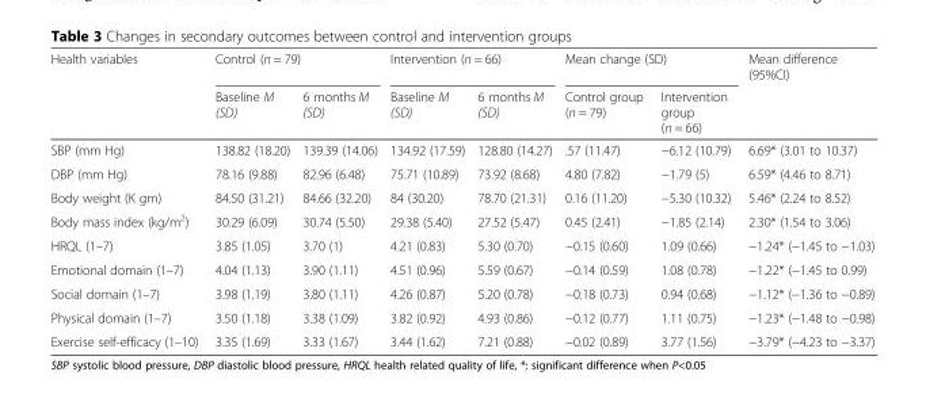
<table><thead><tr><td rowspan="2">Health variables</td><td colspan="2">Control (n = 79)</td><td colspan="2">Intervention (n = 66)</td><td colspan="2">Mean change (SD)</td><td rowspan="2">Mean difference (95%CI)</td></tr><tr><td>Baseline M (SD)</td><td>6 months M (SD)</td><td>Baseline M (SD)</td><td>6 months M (SD)</td><td>Control group (n = 79)</td><td>Intervention group (n = 66)</td></tr></thead><tbody><tr><td>SBP (mm Hg)</td><td>138.82 (18.20)</td><td>139.39 (14.06)</td><td>134.92 (17.59)</td><td>128.80 (14.27)</td><td>.57 (11.47)</td><td>−6.12 (10.79)</td><td>6.69* (3.01 to 10.37)</td></tr><tr><td>DBP (mm Hg)</td><td>78.16 (9.88)</td><td>82.96 (6.48)</td><td>75.71 (10.89)</td><td>73.92 (8.68)</td><td>4.80 (7.82)</td><td>−1.79 (5)</td><td>6.59* (4.46 to 8.71)</td></tr><tr><td>Body weight (K gm)</td><td>84.50 (31.21)</td><td>84.66 (32.20)</td><td>84 (30.20)</td><td>78.70 (21.31)</td><td>0.16 (11.20)</td><td>−5.30 (10.32)</td><td>5.46* (2.24 to 8.52)</td></tr><tr><td>Body mass index (kg/m<sup>2</sup>)</td><td>30.29 (6.09)</td><td>30.74 (5.50)</td><td>29.38 (5.40)</td><td>27.52 (5.47)</td><td>0.45 (2.41)</td><td>−1.85 (2.14)</td><td>2.30* (1.54 to 3.06)</td></tr><tr><td>HRQL (1–7)</td><td>3.85 (1.05)</td><td>3.70 (1)</td><td>4.21 (0.83)</td><td>5.30 (0.70)</td><td>−0.15 (0.60)</td><td>1.09 (0.66)</td><td>−1.24* (−1.45 to −1.03)</td></tr><tr><td>Emotional domain (1–7)</td><td>4.04 (1.13)</td><td>3.90 (1.11)</td><td>4.51 (0.96)</td><td>5.59 (0.67)</td><td>−0.14 (0.59)</td><td>1.08 (0.78)</td><td>−1.22* (−1.45 to 0.99)</td></tr><tr><td>Social domain (1–7)</td><td>3.98 (1.19)</td><td>3.80 (1.11)</td><td>4.26 (0.87)</td><td>5.20 (0.78)</td><td>−0.18 (0.73)</td><td>0.94 (0.68)</td><td>−1.12* (−1.36 to −0.89)</td></tr><tr><td>Physical domain (1–7)</td><td>3.50 (1.18)</td><td>3.38 (1.09)</td><td>3.82 (0.92)</td><td>4.93 (0.86)</td><td>−0.12 (0.77)</td><td>1.11 (0.75)</td><td>−1.23* (−1.48 to −0.98)</td></tr><tr><td>Exercise self-efficacy (1–10)</td><td>3.35 (1.69)</td><td>3.33 (1.67)</td><td>3.44 (1.62)</td><td>7.21 (0.88)</td><td>−0.02 (0.89)</td><td>3.77 (1.56)</td><td>−3.79* (−4.23 to −3.37)</td></tr></tbody></table>